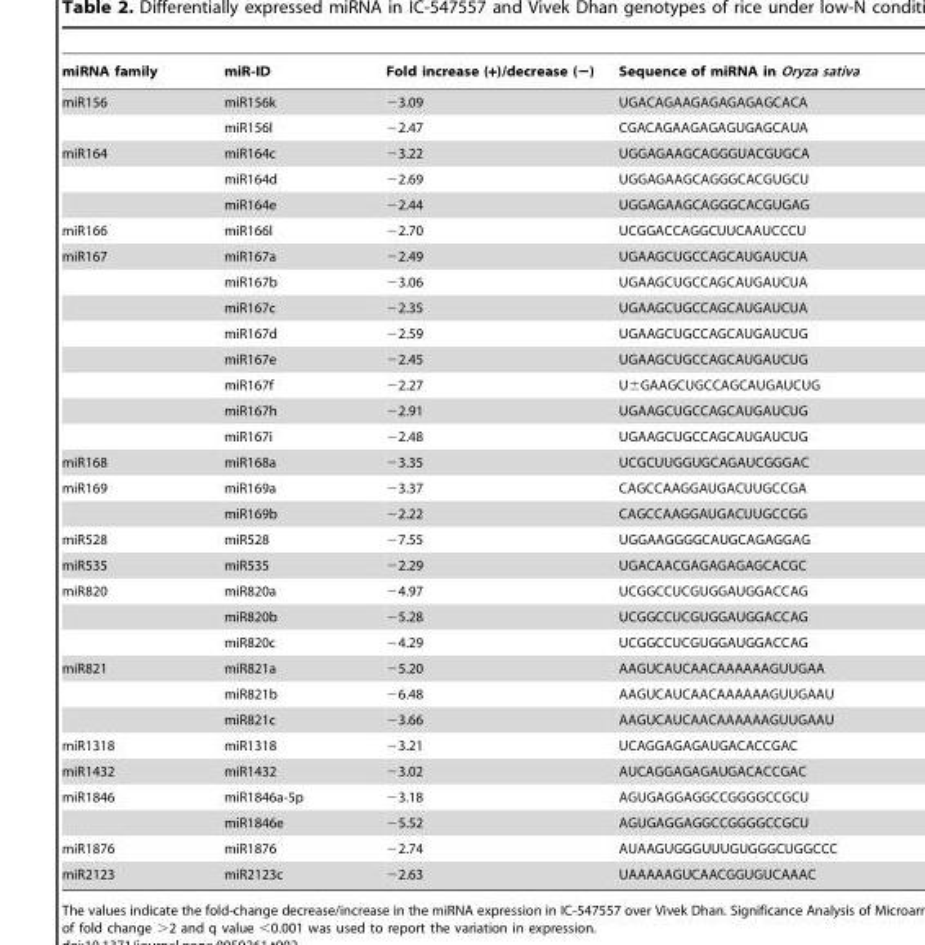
<table><thead><tr><td>miRNA family</td><td>miR-ID</td><td>Fold increase (+)/decrease (−)</td><td>Sequence of miRNA in Oryza sativa</td></tr></thead><tbody><tr><td rowspan="2">miR156</td><td>miR156k</td><td>−3.09</td><td>UGACAGAAGAGAGAGAGCACA</td></tr><tr><td>miR156l</td><td>−2.47</td><td>CGACAGAAGAGAGUGAGCAUA</td></tr><tr><td rowspan="3">miR164</td><td>miR164c</td><td>−3.22</td><td>UGGAGAAGCAGGGUACGUGCA</td></tr><tr><td>miR164d</td><td>−2.69</td><td>UGGAGAAGCAGGGCACGUGCU</td></tr><tr><td>miR164e</td><td>−2.44</td><td>UGGAGAAGCAGGGCACGUGAG</td></tr><tr><td>miR166</td><td>miR166l</td><td>−2.70</td><td>UCGGACCAGGCUUCAAUCCCU</td></tr><tr><td rowspan="8">miR167</td><td>miR167a</td><td>−2.49</td><td>UGAAGCUGCCAGCAUGAUCUA</td></tr><tr><td>miR167b</td><td>−3.06</td><td>UGAAGCUGCCAGCAUGAUCUA</td></tr><tr><td>miR167c</td><td>−2.35</td><td>UGAAGCUGCCAGCAUGAUCUA</td></tr><tr><td>miR167d</td><td>−2.59</td><td>UGAAGCUGCCAGCAUGAUCUG</td></tr><tr><td>miR167e</td><td>−2.45</td><td>UGAAGCUGCCAGCAUGAUCUG</td></tr><tr><td>miR167f</td><td>−2.27</td><td>U±GAAGCUGCCAGCAUGAUCUG</td></tr><tr><td>miR167h</td><td>−2.91</td><td>UGAAGCUGCCAGCAUGAUCUG</td></tr><tr><td>miR167i</td><td>−2.48</td><td>UGAAGCUGCCAGCAUGAUCUG</td></tr><tr><td>miR168</td><td>miR168a</td><td>−3.35</td><td>UCGCUUGGUGCAGAUCGGGAC</td></tr><tr><td rowspan="2">miR169</td><td>miR169a</td><td>−3.37</td><td>CAGCCAAGGAUGACUUGCCGA</td></tr><tr><td>miR169b</td><td>−2.22</td><td>CAGCCAAGGAUGACUUGCCGG</td></tr><tr><td>miR528</td><td>miR528</td><td>−7.55</td><td>UGGAAGGGGCAUGCAGAGGAG</td></tr><tr><td>miR535</td><td>miR535</td><td>−2.29</td><td>UGACAACGAGAGAGAGCACGC</td></tr><tr><td rowspan="3">miR820</td><td>miR820a</td><td>−4.97</td><td>UCGGCCUCGUGGAUGGACCAG</td></tr><tr><td>miR820b</td><td>−5.28</td><td>UCGGCCUCGUGGAUGGACCAG</td></tr><tr><td>miR820c</td><td>−4.29</td><td>UCGGCCUCGUGGAUGGACCAG</td></tr><tr><td rowspan="3">miR821</td><td>miR821a</td><td>−5.20</td><td>AAGUCAUCAACAAAAAAGUUGAA</td></tr><tr><td>miR821b</td><td>−6.48</td><td>AAGUCAUCAACAAAAAAGUUGAAU</td></tr><tr><td>miR821c</td><td>−3.66</td><td>AAGUCAUCAACAAAAAAGUUGAAU</td></tr><tr><td>miR1318</td><td>miR1318</td><td>−3.21</td><td>UCAGGAGAGAUGACACCGAC</td></tr><tr><td>miR1432</td><td>miR1432</td><td>−3.02</td><td>AUCAGGAGAGAUGACACCGAC</td></tr><tr><td rowspan="2">miR1846</td><td>miR1846a-5p</td><td>−3.18</td><td>AGUGAGGAGGCCGGGGCCGCU</td></tr><tr><td>miR1846e</td><td>−5.52</td><td>AGUGAGGAGGCCGGGGCCGCU</td></tr><tr><td>miR1876</td><td>miR1876</td><td>−2.74</td><td>AUAAGUGGGUUUGUGGGCUGGCCC</td></tr><tr><td>miR2123</td><td>miR2123c</td><td>−2.63</td><td>UAAAAAGUCAACGGUGUCAAAC</td></tr></tbody></table>